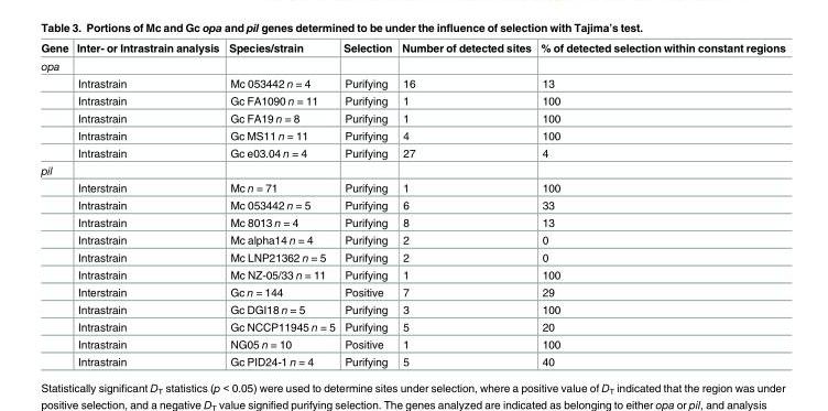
<table><thead><tr><td>Gene</td><td>Inter- or Intrastrain analysis</td><td>Species/strain</td><td>Selection</td><td>Number of detected sites</td><td>% of detected selection within constant regions</td></tr></thead><tbody><tr><td colspan="6">opa</td></tr><tr><td></td><td>Intrastrain</td><td>Mc 053442 n = 4</td><td>Purifying</td><td>16</td><td>13</td></tr><tr><td></td><td>Intrastrain</td><td>Gc FA1090 n = 11</td><td>Purifying</td><td>1</td><td>100</td></tr><tr><td></td><td>Intrastrain</td><td>Gc FA19 n = 8</td><td>Purifying</td><td>1</td><td>100</td></tr><tr><td></td><td>Intrastrain</td><td>Gc MS11 n = 11</td><td>Purifying</td><td>4</td><td>100</td></tr><tr><td></td><td>Intrastrain</td><td>Gc e03.04 n = 4</td><td>Purifying</td><td>27</td><td>4</td></tr><tr><td colspan="6">pil</td></tr><tr><td></td><td>Interstrain</td><td>Mc n = 71</td><td>Purifying</td><td>1</td><td>100</td></tr><tr><td></td><td>Intrastrain</td><td>Mc 053442 n = 5</td><td>Purifying</td><td>6</td><td>33</td></tr><tr><td></td><td>Intrastrain</td><td>Mc 8013 n = 4</td><td>Purifying</td><td>8</td><td>13</td></tr><tr><td></td><td>Intrastrain</td><td>Mc alpha14 n = 4</td><td>Purifying</td><td>2</td><td>0</td></tr><tr><td></td><td>Intrastrain</td><td>Mc LNP21362 n = 5</td><td>Purifying</td><td>2</td><td>0</td></tr><tr><td></td><td>Intrastrain</td><td>Mc NZ-05/33 n = 11</td><td>Purifying</td><td>1</td><td>100</td></tr><tr><td></td><td>Interstrain</td><td>Gc n = 144</td><td>Positive</td><td>7</td><td>29</td></tr><tr><td></td><td>Intrastrain</td><td>Gc DGI18 n = 5</td><td>Purifying</td><td>3</td><td>100</td></tr><tr><td></td><td>Intrastrain</td><td>Gc NCCP11945 n = 5</td><td>Purifying</td><td>5</td><td>20</td></tr><tr><td></td><td>Intrastrain</td><td>NG05 n = 10</td><td>Positive</td><td>1</td><td>100</td></tr><tr><td></td><td>Intrastrain</td><td>Gc PID24-1 n = 4</td><td>Purifying</td><td>5</td><td>40</td></tr></tbody></table>